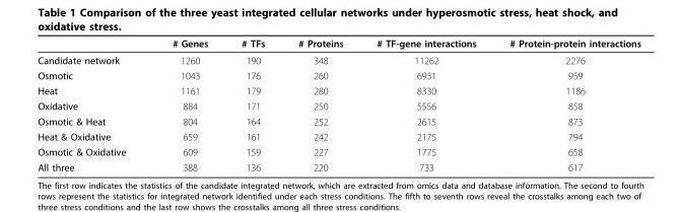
<table><thead><tr><td></td><td># Genes</td><td># TFs</td><td># Proteins</td><td># TF-gene interactions</td><td># Protein-protein interactions</td></tr></thead><tbody><tr><td>Candidate network</td><td>1260</td><td>190</td><td>348</td><td>11262</td><td>2276</td></tr><tr><td>Osmotic</td><td>1043</td><td>176</td><td>260</td><td>6931</td><td>959</td></tr><tr><td>Heat</td><td>1161</td><td>179</td><td>280</td><td>8330</td><td>1186</td></tr><tr><td>Oxidative</td><td>884</td><td>171</td><td>250</td><td>5556</td><td>858</td></tr><tr><td>Osmotic &amp; Heat</td><td>804</td><td>164</td><td>252</td><td>2615</td><td>873</td></tr><tr><td>Heat &amp; Oxidative</td><td>659</td><td>161</td><td>242</td><td>2175</td><td>794</td></tr><tr><td>Osmotic &amp; Oxidative</td><td>609</td><td>159</td><td>227</td><td>1775</td><td>658</td></tr><tr><td>All three</td><td>388</td><td>136</td><td>220</td><td>733</td><td>617</td></tr></tbody></table>